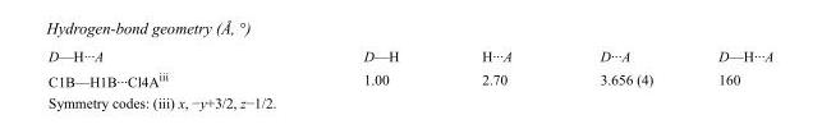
<table><tbody><tr><td>D—H···A</td><td>D—H</td><td>H···A</td><td>D···A</td><td>D—H···A</td></tr><tr><td>C1B—H1B···Cl4A<sup>iii</sup></td><td>1.00</td><td>2.70</td><td>3.656 (4)</td><td>160</td></tr></tbody></table>